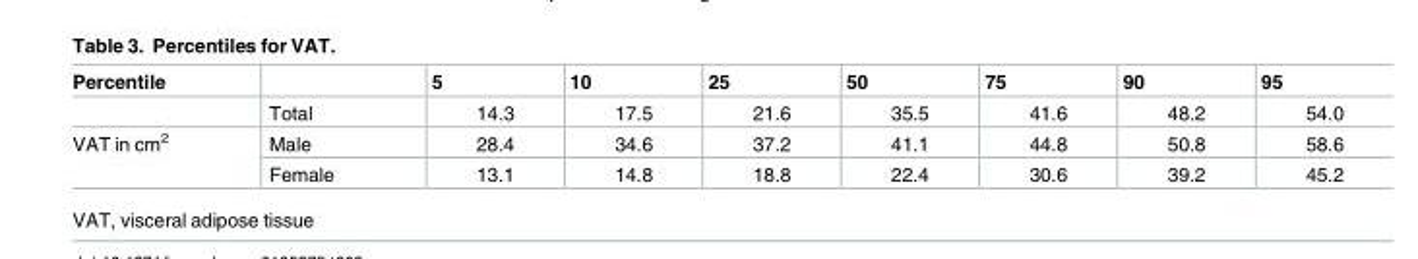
<table><thead><tr><td>Percentile</td><td></td><td>5</td><td>10</td><td>25</td><td>50</td><td>75</td><td>90</td><td>95</td></tr></thead><tbody><tr><td></td><td>Total</td><td>14.3</td><td>17.5</td><td>21.6</td><td>35.5</td><td>41.6</td><td>48.2</td><td>54.0</td></tr><tr><td rowspan="2">VAT in cm<sup>2</sup></td><td>Male</td><td>28.4</td><td>34.6</td><td>37.2</td><td>41.1</td><td>44.8</td><td>50.8</td><td>58.6</td></tr><tr><td>Female</td><td>13.1</td><td>14.8</td><td>18.8</td><td>22.4</td><td>30.6</td><td>39.2</td><td>45.2</td></tr></tbody></table>